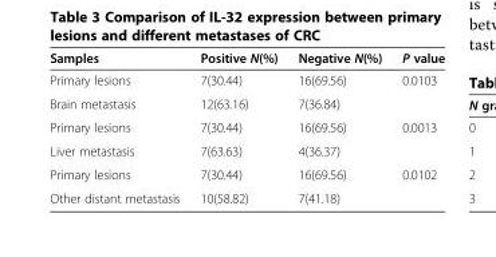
<table><thead><tr><td>Samples</td><td>Positive N(%)</td><td>Negative N(%)</td><td>P value</td></tr></thead><tbody><tr><td>Primary lesions</td><td>7(30.44)</td><td>16(69.56)</td><td>0.0103</td></tr><tr><td>Brain metastasis</td><td>12(63.16)</td><td>7(36.84)</td><td></td></tr><tr><td>Primary lesions</td><td>7(30.44)</td><td>16(69.56)</td><td>0.0013</td></tr><tr><td>Liver metastasis</td><td>7(63.63)</td><td>4(36.37)</td><td></td></tr><tr><td>Primary lesions</td><td>7(30.44)</td><td>16(69.56)</td><td>0.0102</td></tr><tr><td>Other distant metastasis</td><td>10(58.82)</td><td>7(41.18)</td><td></td></tr></tbody></table>